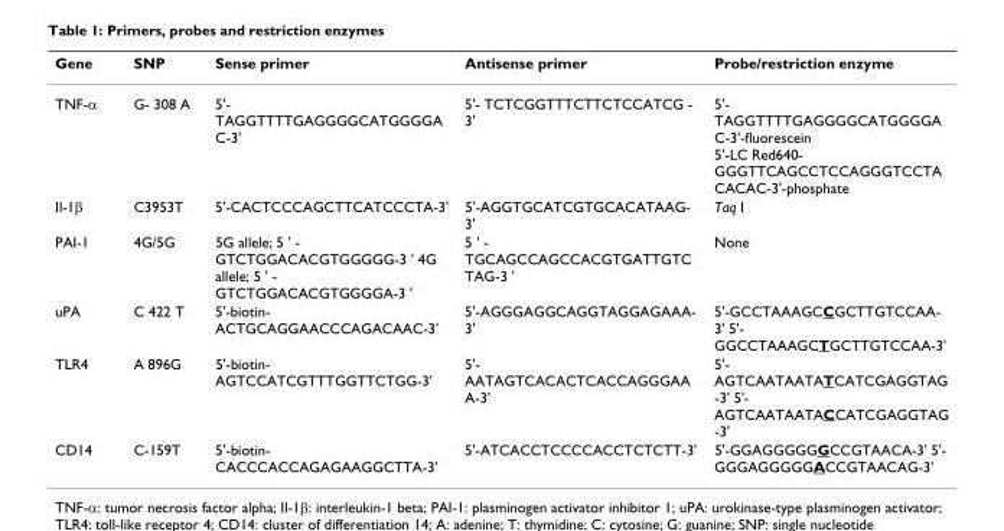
<table><thead><tr><td>Gene</td><td>SNP</td><td>Sense primer</td><td>Antisense primer</td><td>Probe/restriction enzyme</td></tr></thead><tbody><tr><td>TNF-α</td><td>G- 308 A</td><td>5&#x27;- TAGGTTTTGAGGGGCATGGGGA C-3&#x27;</td><td>5&#x27;- TCTCGGTTTCTTCTCCATCG - 3&#x27;</td><td>5&#x27;- TAGGTTTTGAGGGGCATGGGGA C-3&#x27;-fluorescein 5&#x27;-LC Red640- GGGTTCAGCCTCCAGGGTCCTA CACAC-3&#x27;-phosphate</td></tr><tr><td>Il-1β</td><td>C3953T</td><td>5&#x27;-CACTCCCAGCTTCATCCCTA-3&#x27;</td><td>5&#x27;-AGGTGCATCGTGCACATAAG- 3&#x27;</td><td>Taq I</td></tr><tr><td>PAI-1</td><td>4G/5G</td><td>5G allele; 5 &#x27; - GTCTGGACACGTGGGGG-3 &#x27; 4G allele; 5 &#x27; - GTCTGGACACGTGGGGA-3 &#x27;</td><td>5 &#x27; - TGCAGCCAGCCACGTGATTGTC TAG-3 &#x27;</td><td>None</td></tr><tr><td>uPA</td><td>C 422 T</td><td>5&#x27;-biotin- ACTGCAGGAACCCAGACAAC-3&#x27;</td><td>5&#x27;-AGGGAGGCAGGTAGGAGAAA- 3&#x27;</td><td>5&#x27;-GCCTAAAGCCGCTTGTCCAA- 3&#x27; 5&#x27;- GGCCTAAAGCTGCTTGTCCAA-3&#x27;</td></tr><tr><td>TLR4</td><td>A 896G</td><td>5&#x27;-biotin- AGTCCATCGTTTGGTTCTGG-3&#x27;</td><td>5&#x27;- AATAGTCACACTCACCAGGGAA A-3&#x27;</td><td>5&#x27;- AGTCAATAATATCATCGAGGTAG -3&#x27; 5&#x27;- AGTCAATAATACCATCGAGGTAG -3&#x27;</td></tr><tr><td>CD14</td><td>C-159T</td><td>5&#x27;-biotin- CACCCACCAGAGAAGGCTTA-3&#x27;</td><td>5&#x27;-ATCACCTCCCCACCTCTCTT-3&#x27;</td><td>5&#x27;-GGAGGGGGGCCGTAACA-3&#x27; 5&#x27;- GGGAGGGGGACCGTAACAG-3&#x27;</td></tr></tbody></table>